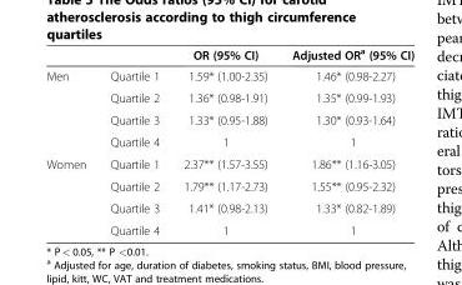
<table><thead><tr><td></td><td></td><td>OR (95% CI)</td><td>Adjusted OR<sup>a</sup> (95% CI)</td></tr></thead><tbody><tr><td rowspan="4">Men</td><td>Quartile 1</td><td>1.59* (1.00-2.35)</td><td>1.46* (0.98-2.27)</td></tr><tr><td>Quartile 2</td><td>1.36* (0.98-1.91)</td><td>1.35* (0.99-1.93)</td></tr><tr><td>Quartile 3</td><td>1.33* (0.95-1.88)</td><td>1.30* (0.93-1.64)</td></tr><tr><td>Quartile 4</td><td>1</td><td>1</td></tr><tr><td rowspan="4">Women</td><td>Quartile 1</td><td>2.37** (1.57-3.55)</td><td>1.86** (1.16-3.05)</td></tr><tr><td>Quartile 2</td><td>1.79** (1.17-2.73)</td><td>1.55** (0.95-2.32)</td></tr><tr><td>Quartile 3</td><td>1.41* (0.98-2.13)</td><td>1.33* (0.82-1.89)</td></tr><tr><td>Quartile 4</td><td>1</td><td>1</td></tr></tbody></table>